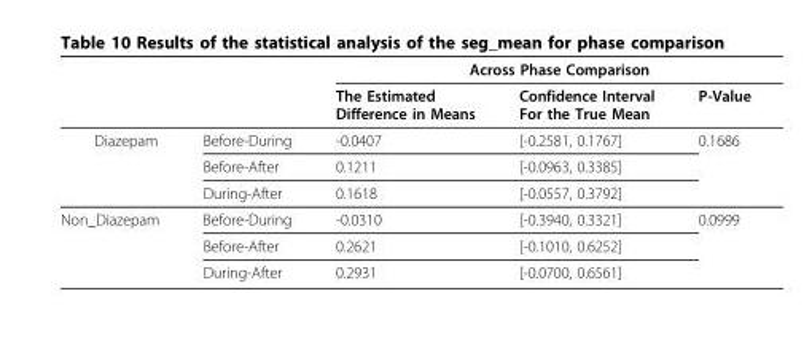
<table><thead><tr><td rowspan="2"></td><td rowspan="2"></td><td colspan="3">Across Phase Comparison</td></tr><tr><td>The Estimated Difference in Means</td><td>Confidence Interval For the True Mean</td><td>P-Value</td></tr></thead><tbody><tr><td rowspan="3">Diazepam</td><td>Before-During</td><td>-0.0407</td><td>[-0.2581, 0.1767]</td><td>0.1686</td></tr><tr><td>Before-After</td><td>0.1211</td><td>[-0.0963, 0.3385]</td><td></td></tr><tr><td>During-After</td><td>0.1618</td><td>[-0.0557, 0.3792]</td><td></td></tr><tr><td rowspan="3">Non_Diazepam</td><td>Before-During</td><td>-0.0310</td><td>[-0.3940, 0.3321]</td><td>0.0999</td></tr><tr><td>Before-After</td><td>0.2621</td><td>[-0.1010, 0.6252]</td><td></td></tr><tr><td>During-After</td><td>0.2931</td><td>[-0.0700, 0.6561]</td><td></td></tr></tbody></table>